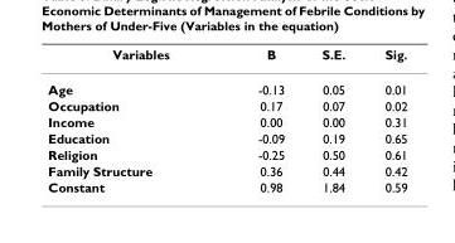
<table><thead><tr><td>Variables</td><td>B</td><td>S.E.</td><td>Sig.</td></tr></thead><tbody><tr><td>Age</td><td>-0.13</td><td>0.05</td><td>0.01</td></tr><tr><td>Occupation</td><td>0.17</td><td>0.07</td><td>0.02</td></tr><tr><td>Income</td><td>0.00</td><td>0.00</td><td>0.31</td></tr><tr><td>Education</td><td>-0.09</td><td>0.19</td><td>0.65</td></tr><tr><td>Religion</td><td>-0.25</td><td>0.50</td><td>0.61</td></tr><tr><td>Family Structure</td><td>0.36</td><td>0.44</td><td>0.42</td></tr><tr><td>Constant</td><td>0.98</td><td>1.84</td><td>0.59</td></tr></tbody></table>